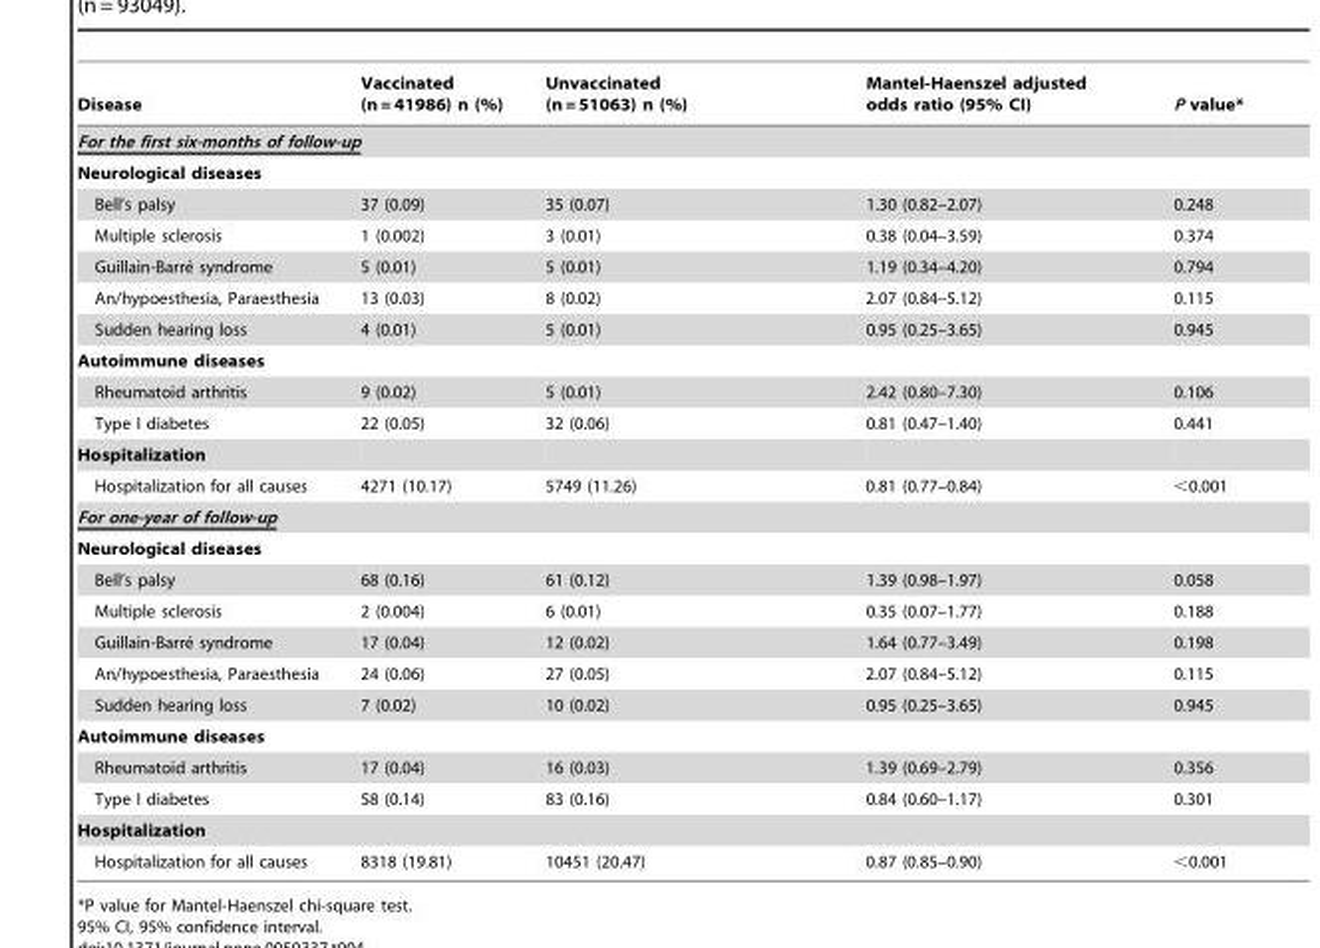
<table><thead><tr><td>Disease</td><td>Vaccinated (n = 41986) n (%)</td><td>Unvaccinated (n = 51063) n (%)</td><td>Mantel-Haenszel adjusted odds ratio (95% CI)</td><td>P value*</td></tr></thead><tbody><tr><td colspan="5">For the first six-months of follow-up</td></tr><tr><td colspan="5">Neurological diseases</td></tr><tr><td>Bell’s palsy</td><td>37 (0.09)</td><td>35 (0.07)</td><td>1.30 (0.82–2.07)</td><td>0.248</td></tr><tr><td>Multiple sclerosis</td><td>1 (0.002)</td><td>3 (0.01)</td><td>0.38 (0.04–3.59)</td><td>0.374</td></tr><tr><td>Guillain-Barre´ syndrome</td><td>5 (0.01)</td><td>5 (0.01)</td><td>1.19 (0.34–4.20)</td><td>0.794</td></tr><tr><td>An/hypoesthesia, Paraesthesia</td><td>13 (0.03)</td><td>8 (0.02)</td><td>2.07 (0.84–5.12)</td><td>0.115</td></tr><tr><td>Sudden hearing loss</td><td>4 (0.01)</td><td>5 (0.01)</td><td>0.95 (0.25–3.65)</td><td>0.945</td></tr><tr><td colspan="5">Autoimmune diseases</td></tr><tr><td>Rheumatoid arthritis</td><td>9 (0.02)</td><td>5 (0.01)</td><td>2.42 (0.80–7.30)</td><td>0.106</td></tr><tr><td>Type I diabetes</td><td>22 (0.05)</td><td>32 (0.06)</td><td>0.81 (0.47–1.40)</td><td>0.441</td></tr><tr><td colspan="5">Hospitalization</td></tr><tr><td>Hospitalization for all causes</td><td>4271 (10.17)</td><td>5749 (11.26)</td><td>0.81 (0.77–0.84)</td><td>&lt;0.001</td></tr><tr><td colspan="5">For one-year of follow-up</td></tr><tr><td colspan="5">Neurological diseases</td></tr><tr><td>Bell’s palsy</td><td>68 (0.16)</td><td>61 (0.12)</td><td>1.39 (0.98–1.97)</td><td>0.058</td></tr><tr><td>Multiple sclerosis</td><td>2 (0.004)</td><td>6 (0.01)</td><td>0.35 (0.07–1.77)</td><td>0.188</td></tr><tr><td>Guillain-Barre´ syndrome</td><td>17 (0.04)</td><td>12 (0.02)</td><td>1.64 (0.77–3.49)</td><td>0.198</td></tr><tr><td>An/hypoesthesia, Paraesthesia</td><td>24 (0.06)</td><td>27 (0.05)</td><td>2.07 (0.84–5.12)</td><td>0.115</td></tr><tr><td>Sudden hearing loss</td><td>7 (0.02)</td><td>10 (0.02)</td><td>0.95 (0.25–3.65)</td><td>0.945</td></tr><tr><td colspan="5">Autoimmune diseases</td></tr><tr><td>Rheumatoid arthritis</td><td>17 (0.04)</td><td>16 (0.03)</td><td>1.39 (0.69–2.79)</td><td>0.356</td></tr><tr><td>Type I diabetes</td><td>58 (0.14)</td><td>83 (0.16)</td><td>0.84 (0.60–1.17)</td><td>0.301</td></tr><tr><td colspan="5">Hospitalization</td></tr><tr><td>Hospitalization for all causes</td><td>8318 (19.81)</td><td>10451 (20.47)</td><td>0.87 (0.85–0.90)</td><td>&lt;0.001</td></tr></tbody></table>